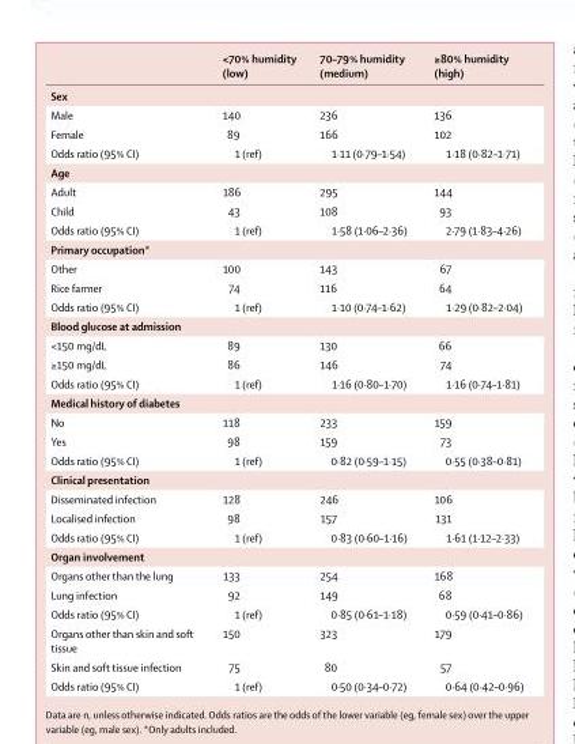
<table><thead><tr><td></td><td>&lt;70% humidity (low)</td><td>70–79% humidity (medium)</td><td>≥80% humidity (high)</td></tr></thead><tbody><tr><td colspan="4">Sex</td></tr><tr><td>Male</td><td>140</td><td>236</td><td>136</td></tr><tr><td>Female</td><td>89</td><td>166</td><td>102</td></tr><tr><td>Odds ratio (95% CI)</td><td>1 (ref)</td><td>1·11 (0·79–1·54)</td><td>1·18 (0·82–1·71)</td></tr><tr><td colspan="4">Age</td></tr><tr><td>Adult</td><td>186</td><td>295</td><td>144</td></tr><tr><td>Child</td><td>43</td><td>108</td><td>93</td></tr><tr><td>Odds ratio (95% CI)</td><td>1 (ref)</td><td>1·58 (1·06–2·36)</td><td>2·79 (1·83–4·26)</td></tr><tr><td colspan="4">Primary occupation*</td></tr><tr><td>Other</td><td>100</td><td>143</td><td>67</td></tr><tr><td>Rice farmer</td><td>74</td><td>116</td><td>64</td></tr><tr><td>Odds ratio (95% CI)</td><td>1 (ref)</td><td>1·10 (0·74–1·62)</td><td>1·29 (0·82–2·04)</td></tr><tr><td colspan="4">Blood glucose at admission</td></tr><tr><td>&lt;150 mg/dL</td><td>89</td><td>130</td><td>66</td></tr><tr><td>≥150 mg/dL</td><td>86</td><td>146</td><td>74</td></tr><tr><td>Odds ratio (95% CI)</td><td>1 (ref)</td><td>1·16 (0·80–1·70)</td><td>1·16 (0·74–1·81)</td></tr><tr><td colspan="4">Medical history of diabetes</td></tr><tr><td>No</td><td>118</td><td>233</td><td>159</td></tr><tr><td>Yes</td><td>98</td><td>159</td><td>73</td></tr><tr><td>Odds ratio (95% CI)</td><td>1 (ref)</td><td>0·82 (0·59–1·15)</td><td>0·55 (0·38–0·81)</td></tr><tr><td colspan="4">Clinical presentation</td></tr><tr><td>Disseminated infection</td><td>128</td><td>246</td><td>106</td></tr><tr><td>Localised infection</td><td>98</td><td>157</td><td>131</td></tr><tr><td>Odds ratio (95% CI)</td><td>1 (ref)</td><td>0·83 (0·60–1·16)</td><td>1·61 (1·12–2·33)</td></tr><tr><td colspan="4">Organ involvement</td></tr><tr><td>Organs other than the lung</td><td>133</td><td>254</td><td>168</td></tr><tr><td>Lung infection</td><td>92</td><td>149</td><td>68</td></tr><tr><td>Odds ratio (95% CI)</td><td>1 (ref)</td><td>0·85 (0·61–1·18)</td><td>0·59 (0·41–0·86)</td></tr><tr><td>Organs other than skin and soft tissue</td><td>150</td><td>323</td><td>179</td></tr><tr><td>Skin and soft tissue infection</td><td>75</td><td>80</td><td>57</td></tr><tr><td>Odds ratio (95% CI)</td><td>1 (ref)</td><td>0·50 (0·34–0·72)</td><td>0·64 (0·42–0·96)</td></tr></tbody></table>